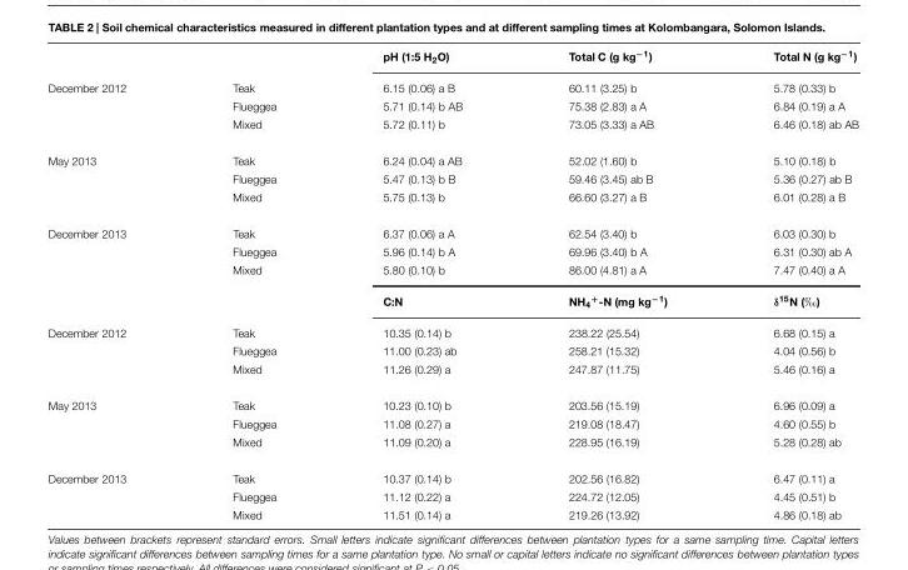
<table><thead><tr><td></td><td></td><td>pH (1:5 H<sub>2</sub>O)</td><td>Total C (g kg<sup>−1</sup>)</td><td>Total N (g kg<sup>−1</sup>)</td></tr></thead><tbody><tr><td rowspan="3">December 2012</td><td>Teak</td><td>6.15 (0.06) a B</td><td>60.11 (3.25) b</td><td>5.78 (0.33) b</td></tr><tr><td>Flueggea</td><td>5.71 (0.14) b AB</td><td>75.38 (2.83) a A</td><td>6.84 (0.19) a A</td></tr><tr><td>Mixed</td><td>5.72 (0.11) b</td><td>73.05 (3.33) a AB</td><td>6.46 (0.18) ab AB</td></tr><tr><td rowspan="3">May 2013</td><td>Teak</td><td>6.24 (0.04) a AB</td><td>52.02 (1.60) b</td><td>5.10 (0.18) b</td></tr><tr><td>Flueggea</td><td>5.47 (0.13) b B</td><td>59.46 (3.45) ab B</td><td>5.36 (0.27) ab B</td></tr><tr><td>Mixed</td><td>5.75 (0.13) b</td><td>66.60 (3.27) a B</td><td>6.01 (0.28) a B</td></tr><tr><td rowspan="4">December 2013</td><td>Teak</td><td>6.37 (0.06) a A</td><td>62.54 (3.40) b</td><td>6.03 (0.30) b</td></tr><tr><td>Flueggea</td><td>5.96 (0.14) b A</td><td>69.96 (3.40) b A</td><td>6.31 (0.30) ab A</td></tr><tr><td>Mixed</td><td>5.80 (0.10) b</td><td>86.00 (4.81) a A</td><td>7.47 (0.40) a A</td></tr><tr><td></td><td>C:N</td><td>NH<sub>4</sub><sup>+</sup>-N (mg kg<sup>−1</sup>)</td><td>δ<sup>15</sup>N (‰)</td></tr><tr><td rowspan="3">December 2012</td><td>Teak</td><td>10.35 (0.14) b</td><td>238.22 (25.54)</td><td>6.68 (0.15) a</td></tr><tr><td>Flueggea</td><td>11.00 (0.23) ab</td><td>258.21 (15.32)</td><td>4.04 (0.56) b</td></tr><tr><td>Mixed</td><td>11.26 (0.29) a</td><td>247.87 (11.75)</td><td>5.46 (0.16) a</td></tr><tr><td rowspan="3">May 2013</td><td>Teak</td><td>10.23 (0.10) b</td><td>203.56 (15.19)</td><td>6.96 (0.09) a</td></tr><tr><td>Flueggea</td><td>11.08 (0.27) a</td><td>219.08 (18.47)</td><td>4.60 (0.55) b</td></tr><tr><td>Mixed</td><td>11.09 (0.20) a</td><td>228.95 (16.19)</td><td>5.28 (0.28) ab</td></tr><tr><td rowspan="3">December 2013</td><td>Teak</td><td>10.37 (0.14) b</td><td>202.56 (16.82)</td><td>6.47 (0.11) a</td></tr><tr><td>Flueggea</td><td>11.12 (0.22) a</td><td>224.72 (12.05)</td><td>4.45 (0.51) b</td></tr><tr><td>Mixed</td><td>11.51 (0.14) a</td><td>219.26 (13.92)</td><td>4.86 (0.18) ab</td></tr></tbody></table>